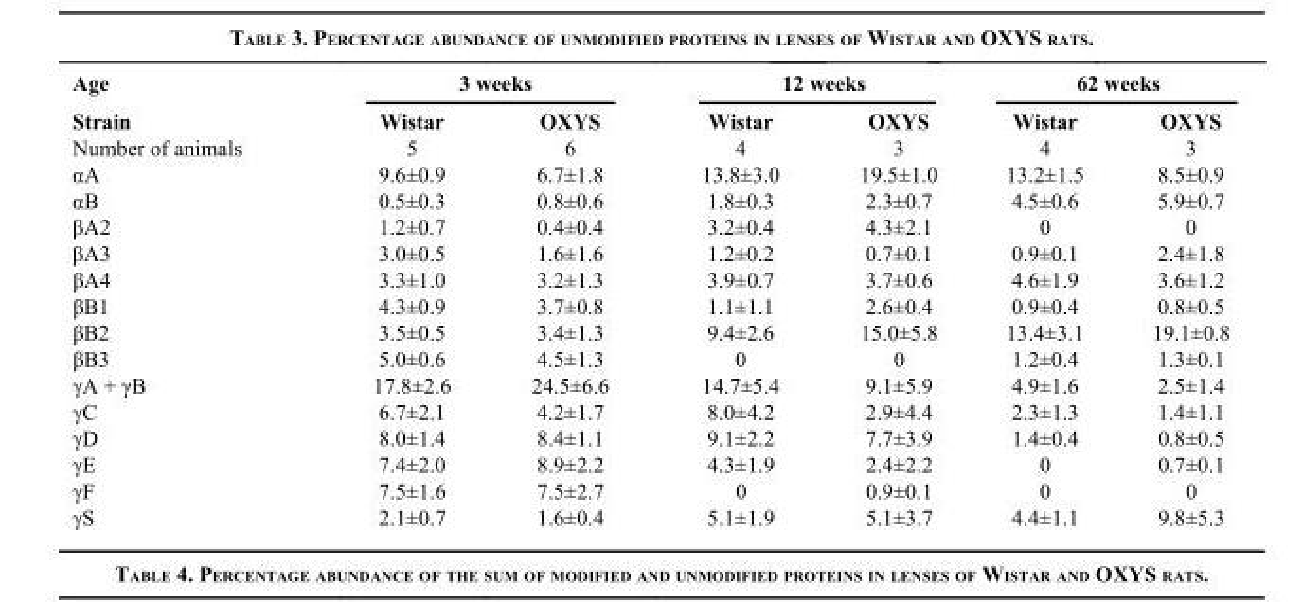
<table><thead><tr><td rowspan="2">Age Strain</td><td colspan="2">3 weeks</td><td colspan="2">12 weeks</td><td colspan="2">62 weeks</td></tr><tr><td>Wistar</td><td>OXYS</td><td>Wistar</td><td>OXYS</td><td>Wistar</td><td>OXYS</td></tr></thead><tbody><tr><td>Number of animals</td><td>5</td><td>6</td><td>4</td><td>3</td><td>4</td><td>3</td></tr><tr><td>αA</td><td>9.6±0.9</td><td>6.7±1.8</td><td>13.8±3.0</td><td>19.5±1.0</td><td>13.2±1.5</td><td>8.5±0.9</td></tr><tr><td>αB</td><td>0.5±0.3</td><td>0.8±0.6</td><td>1.8±0.3</td><td>2.3±0.7</td><td>4.5±0.6</td><td>5.9±0.7</td></tr><tr><td>βA2</td><td>1.2±0.7</td><td>0.4±0.4</td><td>3.2±0.4</td><td>4.3±2.1</td><td>0</td><td>0</td></tr><tr><td>βA3</td><td>3.0±0.5</td><td>1.6±1.6</td><td>1.2±0.2</td><td>0.7±0.1</td><td>0.9±0.1</td><td>2.4±1.8</td></tr><tr><td>βA4</td><td>3.3±1.0</td><td>3.2±1.3</td><td>3.9±0.7</td><td>3.7±0.6</td><td>4.6±1.9</td><td>3.6±1.2</td></tr><tr><td>βB1</td><td>4.3±0.9</td><td>3.7±0.8</td><td>1.1±1.1</td><td>2.6±0.4</td><td>0.9±0.4</td><td>0.8±0.5</td></tr><tr><td>βB2</td><td>3.5±0.5</td><td>3.4±1.3</td><td>9.4±2.6</td><td>15.0±5.8</td><td>13.4±3.1</td><td>19.1±0.8</td></tr><tr><td>βB3</td><td>5.0±0.6</td><td>4.5±1.3</td><td>0</td><td>0</td><td>1.2±0.4</td><td>1.3±0.1</td></tr><tr><td>γA + γB</td><td>17.8±2.6</td><td>24.5±6.6</td><td>14.7±5.4</td><td>9.1±5.9</td><td>4.9±1.6</td><td>2.5±1.4</td></tr><tr><td>γC</td><td>6.7±2.1</td><td>4.2±1.7</td><td>8.0±4.2</td><td>2.9±4.4</td><td>2.3±1.3</td><td>1.4±1.1</td></tr><tr><td>γD</td><td>8.0±1.4</td><td>8.4±1.1</td><td>9.1±2.2</td><td>7.7±3.9</td><td>1.4±0.4</td><td>0.8±0.5</td></tr><tr><td>γE</td><td>7.4±2.0</td><td>8.9±2.2</td><td>4.3±1.9</td><td>2.4±2.2</td><td>0</td><td>0.7±0.1</td></tr><tr><td>γF</td><td>7.5±1.6</td><td>7.5±2.7</td><td>0</td><td>0.9±0.1</td><td>0</td><td>0</td></tr><tr><td>γS</td><td>2.1±0.7</td><td>1.6±0.4</td><td>5.1±1.9</td><td>5.1±3.7</td><td>4.4±1.1</td><td>9.8±5.3</td></tr></tbody></table>